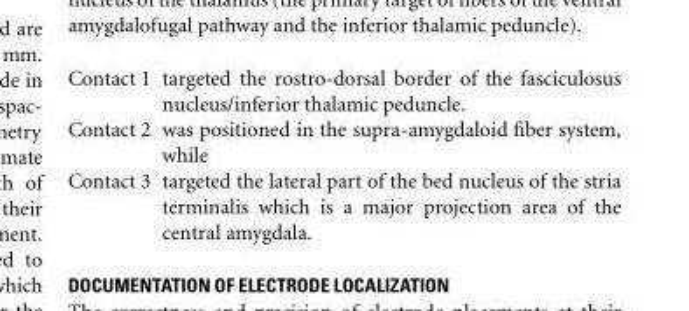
<table><tbody><tr><td>Contact 1</td><td>targeted the rostro-dorsal border of the fasciculosus nucleus/inferior thalamic peduncle.</td></tr><tr><td>Contact 2</td><td>was positioned in the supra-amygdaloid fiber system, while</td></tr><tr><td>Contact 3</td><td>targeted the lateral part of the bed nucleus of the stria terminalis which is a major projection area of the central amygdala.</td></tr></tbody></table>